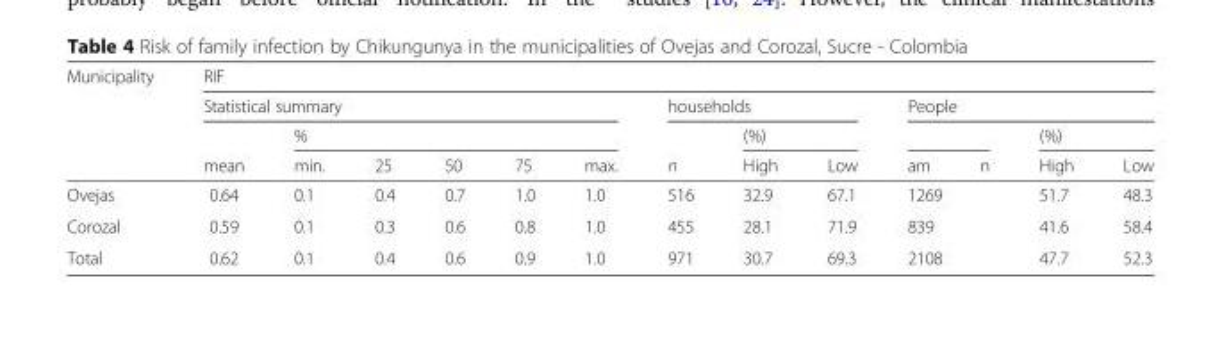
<table><thead><tr><td rowspan="4">Municipality</td><td colspan="13">RIF</td></tr><tr><td colspan="6">Statistical summary</td><td colspan="3">households</td><td colspan="4">People</td></tr><tr><td rowspan="2">mean</td><td colspan="5">%</td><td rowspan="2">n</td><td colspan="2">(%)</td><td rowspan="2">am</td><td rowspan="2">n</td><td colspan="2">(%)</td></tr><tr><td>min.</td><td>25</td><td>50</td><td>75</td><td>max.</td><td>High</td><td>Low</td><td>High</td><td>Low</td></tr></thead><tbody><tr><td>Ovejas</td><td>0.64</td><td>0.1</td><td>0.4</td><td>0.7</td><td>1.0</td><td>1.0</td><td>516</td><td>32.9</td><td>67.1</td><td colspan="2">1269</td><td>51.7</td><td>48.3</td></tr><tr><td>Corozal</td><td>0.59</td><td>0.1</td><td>0.3</td><td>0.6</td><td>0.8</td><td>1.0</td><td>455</td><td>28.1</td><td>71.9</td><td colspan="2">839</td><td>41.6</td><td>58.4</td></tr><tr><td>Total</td><td>0.62</td><td>0.1</td><td>0.4</td><td>0.6</td><td>0.9</td><td>1.0</td><td>971</td><td>30.7</td><td>69.3</td><td colspan="2">2108</td><td>47.7</td><td>52.3</td></tr></tbody></table>